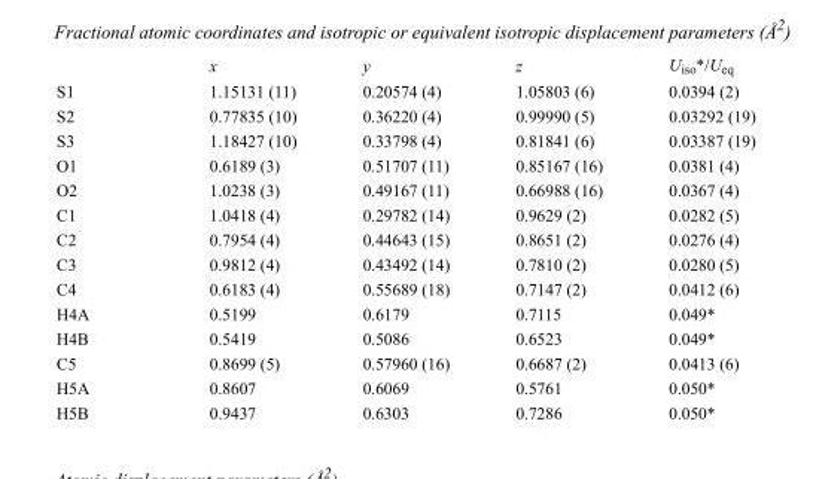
<table><thead><tr><td></td><td>x</td><td>y</td><td>z</td><td>U<sub>iso</sub>*/U<sub>eq</sub></td></tr></thead><tbody><tr><td>S1</td><td>1.15131 (11)</td><td>0.20574 (4)</td><td>1.05803 (6)</td><td>0.0394 (2)</td></tr><tr><td>S2</td><td>0.77835 (10)</td><td>0.36220 (4)</td><td>0.99990 (5)</td><td>0.03292 (19)</td></tr><tr><td>S3</td><td>1.18427 (10)</td><td>0.33798 (4)</td><td>0.81841 (6)</td><td>0.03387 (19)</td></tr><tr><td>O1</td><td>0.6189 (3)</td><td>0.51707 (11)</td><td>0.85167 (16)</td><td>0.0381 (4)</td></tr><tr><td>O2</td><td>1.0238 (3)</td><td>0.49167 (11)</td><td>0.66988 (16)</td><td>0.0367 (4)</td></tr><tr><td>C1</td><td>1.0418 (4)</td><td>0.29782 (14)</td><td>0.9629 (2)</td><td>0.0282 (5)</td></tr><tr><td>C2</td><td>0.7954 (4)</td><td>0.44643 (15)</td><td>0.8651 (2)</td><td>0.0276 (4)</td></tr><tr><td>C3</td><td>0.9812 (4)</td><td>0.43492 (14)</td><td>0.7810 (2)</td><td>0.0280 (5)</td></tr><tr><td>C4</td><td>0.6183 (4)</td><td>0.55689 (18)</td><td>0.7147 (2)</td><td>0.0412 (6)</td></tr><tr><td>H4A</td><td>0.5199</td><td>0.6179</td><td>0.7115</td><td>0.049*</td></tr><tr><td>H4B</td><td>0.5419</td><td>0.5086</td><td>0.6523</td><td>0.049*</td></tr><tr><td>C5</td><td>0.8699 (5)</td><td>0.57960 (16)</td><td>0.6687 (2)</td><td>0.0413 (6)</td></tr><tr><td>H5A</td><td>0.8607</td><td>0.6069</td><td>0.5761</td><td>0.050*</td></tr><tr><td>H5B</td><td>0.9437</td><td>0.6303</td><td>0.7286</td><td>0.050*</td></tr></tbody></table>